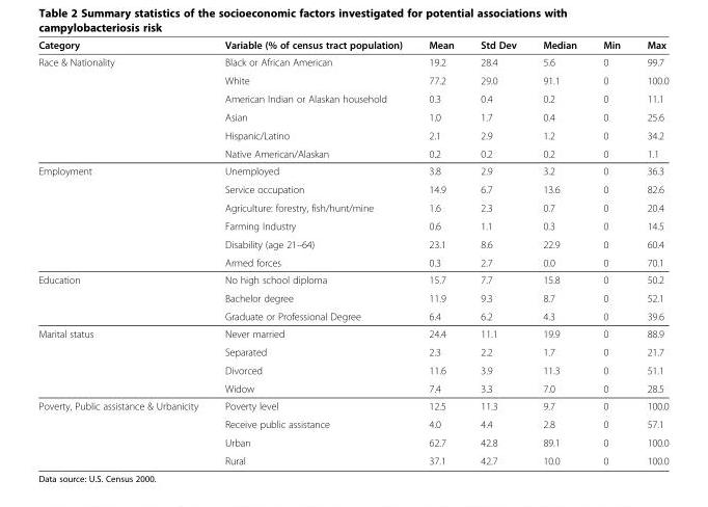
<table><thead><tr><td>Category</td><td>Variable (% of census tract population)</td><td>Mean</td><td>Std Dev</td><td>Median</td><td>Min</td><td>Max</td></tr></thead><tbody><tr><td rowspan="6">Race &amp; Nationality</td><td>Black or African American</td><td>19.2</td><td>28.4</td><td>5.6</td><td>0</td><td>99.7</td></tr><tr><td>White</td><td>77.2</td><td>29.0</td><td>91.1</td><td>0</td><td>100.0</td></tr><tr><td>American Indian or Alaskan household</td><td>0.3</td><td>0.4</td><td>0.2</td><td>0</td><td>11.1</td></tr><tr><td>Asian</td><td>1.0</td><td>1.7</td><td>0.4</td><td>0</td><td>25.6</td></tr><tr><td>Hispanic/Latino</td><td>2.1</td><td>2.9</td><td>1.2</td><td>0</td><td>34.2</td></tr><tr><td>Native American/Alaskan</td><td>0.2</td><td>0.2</td><td>0.2</td><td>0</td><td>1.1</td></tr><tr><td rowspan="6">Employment</td><td>Unemployed</td><td>3.8</td><td>2.9</td><td>3.2</td><td>0</td><td>36.3</td></tr><tr><td>Service occupation</td><td>14.9</td><td>6.7</td><td>13.6</td><td>0</td><td>82.6</td></tr><tr><td>Agriculture: forestry, fish/hunt/mine</td><td>1.6</td><td>2.3</td><td>0.7</td><td>0</td><td>20.4</td></tr><tr><td>Farming Industry</td><td>0.6</td><td>1.1</td><td>0.3</td><td>0</td><td>14.5</td></tr><tr><td>Disability (age 21–64)</td><td>23.1</td><td>8.6</td><td>22.9</td><td>0</td><td>60.4</td></tr><tr><td>Armed forces</td><td>0.3</td><td>2.7</td><td>0.0</td><td>0</td><td>70.1</td></tr><tr><td rowspan="3">Education</td><td>No high school diploma</td><td>15.7</td><td>7.7</td><td>15.8</td><td>0</td><td>50.2</td></tr><tr><td>Bachelor degree</td><td>11.9</td><td>9.3</td><td>8.7</td><td>0</td><td>52.1</td></tr><tr><td>Graduate or Professional Degree</td><td>6.4</td><td>6.2</td><td>4.3</td><td>0</td><td>39.6</td></tr><tr><td rowspan="4">Marital status</td><td>Never married</td><td>24.4</td><td>11.1</td><td>19.9</td><td>0</td><td>88.9</td></tr><tr><td>Separated</td><td>2.3</td><td>2.2</td><td>1.7</td><td>0</td><td>21.7</td></tr><tr><td>Divorced</td><td>11.6</td><td>3.9</td><td>11.3</td><td>0</td><td>51.1</td></tr><tr><td>Widow</td><td>7.4</td><td>3.3</td><td>7.0</td><td>0</td><td>28.5</td></tr><tr><td rowspan="4">Poverty, Public assistance &amp; Urbanicity</td><td>Poverty level</td><td>12.5</td><td>11.3</td><td>9.7</td><td>0</td><td>100.0</td></tr><tr><td>Receive public assistance</td><td>4.0</td><td>4.4</td><td>2.8</td><td>0</td><td>57.1</td></tr><tr><td>Urban</td><td>62.7</td><td>42.8</td><td>89.1</td><td>0</td><td>100.0</td></tr><tr><td>Rural</td><td>37.1</td><td>42.7</td><td>10.0</td><td>0</td><td>100.0</td></tr></tbody></table>